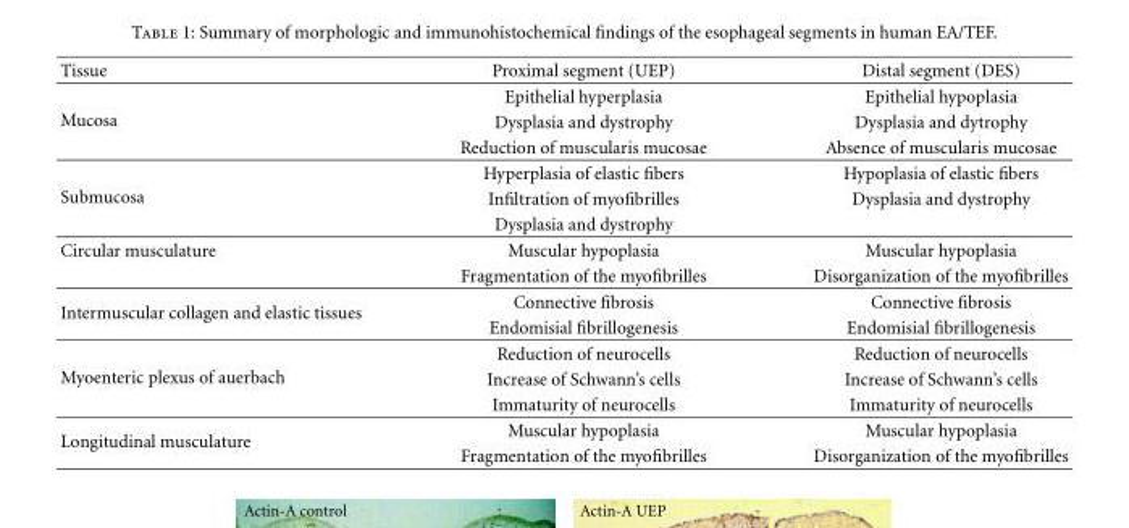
<table><thead><tr><td>Tissue</td><td>Proximal segment (UEP)</td><td>Distal segment (DES)</td></tr></thead><tbody><tr><td rowspan="3">Mucosa</td><td>Epithelial hyperplasia</td><td>Epithelial hypoplasia</td></tr><tr><td>Dysplasia and dystrophy</td><td>Dysplasia and dytrophy</td></tr><tr><td>Reduction of muscularis mucosae</td><td>Absence of muscularis mucosae</td></tr><tr><td rowspan="3">Submucosa</td><td>Hyperplasia of elastic fibers</td><td>Hypoplasia of elastic fibers</td></tr><tr><td>Infiltration of myofibrilles</td><td>Dysplasia and dystrophy</td></tr><tr><td>Dysplasia and dystrophy</td><td></td></tr><tr><td rowspan="2">Circular musculature</td><td>Muscular hypoplasia</td><td>Muscular hypoplasia</td></tr><tr><td>Fragmentation of the myofibrilles</td><td>Disorganization of the myofibrilles</td></tr><tr><td rowspan="2">Intermuscular collagen and elastic tissues</td><td>Connective fibrosis</td><td>Connective fibrosis</td></tr><tr><td>Endomisial fibrillogenesis</td><td>Endomisial fibrillogenesis</td></tr><tr><td rowspan="3">Myoenteric plexus of auerbach</td><td>Reduction of neurocells</td><td>Reduction of neurocells</td></tr><tr><td>Increase of Schwann’s cells</td><td>Increase of Schwann’s cells</td></tr><tr><td>Immaturity of neurocells</td><td>Immaturity of neurocells</td></tr><tr><td rowspan="2">Longitudinal musculature</td><td>Muscular hypoplasia</td><td>Muscular hypoplasia</td></tr><tr><td>Fragmentation of the myofibrilles</td><td>Disorganization of the myofibrilles</td></tr></tbody></table>